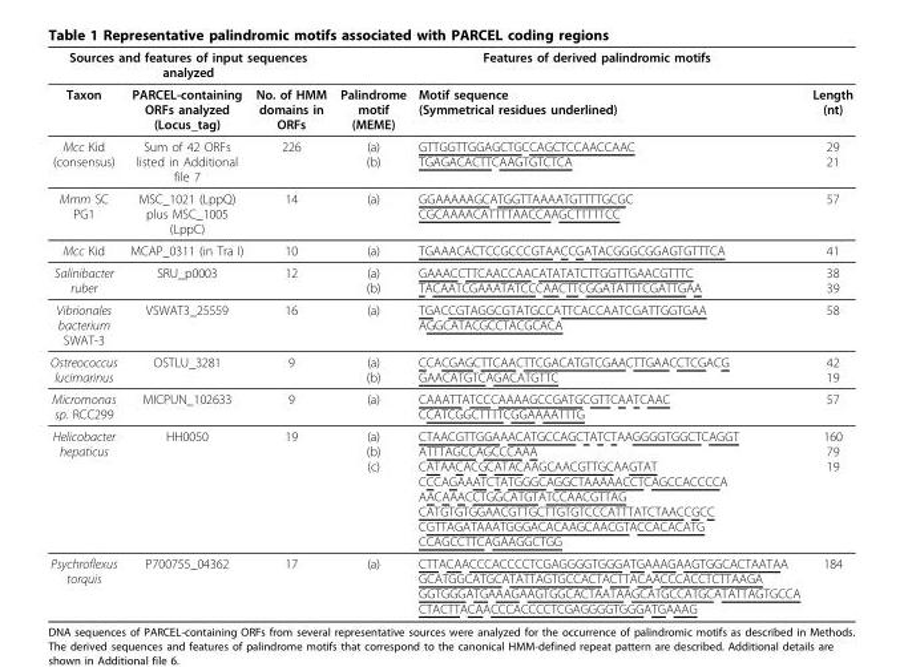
<table><thead><tr><td colspan="3">Sources and features of input sequences analyzed</td><td colspan="3">Features of derived palindromic motifs</td></tr><tr><td>Taxon</td><td>PARCEL-containing ORFs analyzed (Locus_tag)</td><td>No. of HMM domains in ORFs</td><td>Palindrome motif (MEME)</td><td>Motif sequence (Symmetrical residues underlined)</td><td>Length (nt)</td></tr></thead><tbody><tr><td>Mcc Kid (consensus)</td><td>Sum of 42 ORFs listed in Additional file 7</td><td>226</td><td>(a) (b)</td><td>GTTGGTTGGAGCTGCCAGCTCCAACCAAC TGAGACACTTCAAGTGTCTCA</td><td>29 21</td></tr><tr><td>Mmm SC PG1</td><td>MSC_1021 (LppQ) plus MSC_1005 (LppC)</td><td>14</td><td>(a)</td><td>GGAAAAAGCATGGTTAAAATGTTTTGCGC CGCAAAACATTTTAACCAAGCTTTTTCC</td><td>57</td></tr><tr><td>Mcc Kid</td><td>MCAP_0311 (in Tra I)</td><td>10</td><td>(a)</td><td>TGAAACACTCCGCCCGTAACCGATACGGGCGGAGTGTTTCA</td><td>41</td></tr><tr><td>Salinibacter ruber</td><td>SRU_p0003</td><td>12</td><td>(a) (b)</td><td>GAAACCTTCAACCAACATATATCTTGGTTGAACGTTTC TACAATCGAAATATCCCAACTTCGGATATTTCGATTGAA</td><td>38 39</td></tr><tr><td>Vibrionales bacterium SWAT-3</td><td>VSWAT3_25559</td><td>16</td><td>(a)</td><td>TGACCGTAGGCGTATGCCATTCACCAATCGATTGGTGAA AGGCATACGCCTACGCACA</td><td>58</td></tr><tr><td>Ostreococcus lucimarinus</td><td>OSTLU_3281</td><td>9</td><td>(a) (b)</td><td>CCACGAGCTTCAACTTCGACATGTCGAACTTGAACCTCGACG GAACATGTCAGACATGTTC</td><td>42 19</td></tr><tr><td>Micromonas sp. RCC299</td><td>MICPUN_102633</td><td>9</td><td>(a)</td><td>CAAATTATCCCAAAAGCCGATGCGTTCAATCAAC CCATCGGCTTTTCGGAAAATTTG</td><td>57</td></tr><tr><td>Helicobacter hepaticus</td><td>HH0050</td><td>19</td><td>(a) (b) (c)</td><td>CTAACGTTGGAAACATGCCAGCTATCTAAGGGGTGGCTCAGGT ATTTAGCCAGCCCAAA CATAACACGCATACAAGCAACGTTGCAAGTAT CCCAGAAATCTATGGGCAGGCTAAAAACCTCAGCCACCCCA AACAAACCTGGCATGTATCCAACGTTAG CATGTGTGGAACGTTGCTTGTGTCCCATTTATCTAACCGCC CGTTAGATAAATGGGACACAAGCAACGTACCACACATG CCAGCCTTCAGAAGGCTGG</td><td>160 79 19</td></tr><tr><td>Psychroflexus torquis</td><td>P700755_04362</td><td>17</td><td>(a)</td><td>CTTACAACCCACCCCTCGAGGGGTGGGATGAAAGAAGTGGCACTAATAA GCATGGCATGCATATTAGTGCCACTACTTACAACCCACCTCTTAAGA GGTGGGATGAAAGAAGTGGCACTAATAAGCATGCCATGCATATTAGTGCCA CTACTTACAACCCACCCCTCGAGGGGTGGGATGAAAG</td><td>184</td></tr></tbody></table>